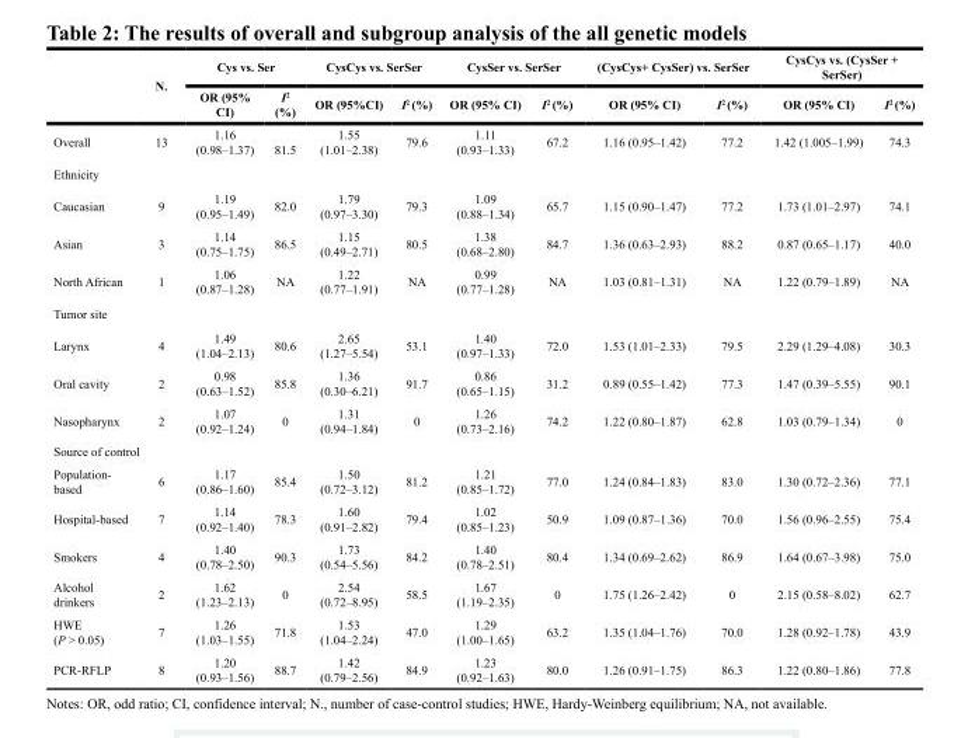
<table><thead><tr><td rowspan="2"></td><td rowspan="2">N.</td><td colspan="2">Cys vs. Ser</td><td colspan="2">CysCys vs. SerSer</td><td colspan="2">CysSer vs. SerSer</td><td colspan="2">(CysCys+ CysSer) vs. SerSer</td><td colspan="2">CysCys vs. (CysSer + SerSer)</td></tr><tr><td>OR (95% CI)</td><td>I<sup>2</sup> (%)</td><td>OR (95%CI)</td><td>I<sup>2</sup> (%)</td><td>OR (95% CI)</td><td>I<sup>2</sup> (%)</td><td>OR (95% CI)</td><td>I<sup>2</sup> (%)</td><td>OR (95% CI)</td><td>I<sup>2</sup> (%)</td></tr></thead><tbody><tr><td>Overall</td><td>13</td><td>1.16 (0.98–1.37)</td><td>81.5</td><td>1.55 (1.01–2.38)</td><td>79.6</td><td>1.11 (0.93–1.33)</td><td>67.2</td><td>1.16 (0.95–1.42)</td><td>77.2</td><td>1.42 (1.005–1.99)</td><td>74.3</td></tr><tr><td colspan="12">Ethnicity</td></tr><tr><td>Caucasian</td><td>9</td><td>1.19 (0.95–1.49)</td><td>82.0</td><td>1.79 (0.97–3.30)</td><td>79.3</td><td>1.09 (0.88–1.34)</td><td>65.7</td><td>1.15 (0.90–1.47)</td><td>77.2</td><td>1.73 (1.01–2.97)</td><td>74.1</td></tr><tr><td>Asian</td><td>3</td><td>1.14 (0.75–1.75)</td><td>86.5</td><td>1.15 (0.49–2.71)</td><td>80.5</td><td>1.38 (0.68–2.80)</td><td>84.7</td><td>1.36 (0.63–2.93)</td><td>88.2</td><td>0.87 (0.65–1.17)</td><td>40.0</td></tr><tr><td>North African</td><td>1</td><td>1.06 (0.87–1.28)</td><td>NA</td><td>1.22 (0.77–1.91)</td><td>NA</td><td>0.99 (0.77–1.28)</td><td>NA</td><td>1.03 (0.81–1.31)</td><td>NA</td><td>1.22 (0.79–1.89)</td><td>NA</td></tr><tr><td colspan="12">Tumor site</td></tr><tr><td>Larynx</td><td>4</td><td>1.49 (1.04–2.13)</td><td>80.6</td><td>2.65 (1.27–5.54)</td><td>53.1</td><td>1.40 (0.97–1.33)</td><td>72.0</td><td>1.53 (1.01–2.33)</td><td>79.5</td><td>2.29 (1.29–4.08)</td><td>30.3</td></tr><tr><td>Oral cavity</td><td>2</td><td>0.98 (0.63–1.52)</td><td>85.8</td><td>1.36 (0.30–6.21)</td><td>91.7</td><td>0.86 (0.65–1.15)</td><td>31.2</td><td>0.89 (0.55–1.42)</td><td>77.3</td><td>1.47 (0.39–5.55)</td><td>90.1</td></tr><tr><td>Nasopharynx</td><td>2</td><td>1.07 (0.92–1.24)</td><td>0</td><td>1.31 (0.94–1.84)</td><td>0</td><td>1.26 (0.73–2.16)</td><td>74.2</td><td>1.22 (0.80–1.87)</td><td>62.8</td><td>1.03 (0.79–1.34)</td><td>0</td></tr><tr><td colspan="12">Source of control</td></tr><tr><td>Population- based</td><td>6</td><td>1.17 (0.86–1.60)</td><td>85.4</td><td>1.50 (0.72–3.12)</td><td>81.2</td><td>1.21 (0.85–1.72)</td><td>77.0</td><td>1.24 (0.84–1.83)</td><td>83.0</td><td>1.30 (0.72–2.36)</td><td>77.1</td></tr><tr><td>Hospital-based</td><td>7</td><td>1.14 (0.92–1.40)</td><td>78.3</td><td>1.60 (0.91–2.82)</td><td>79.4</td><td>1.02 (0.85–1.23)</td><td>50.9</td><td>1.09 (0.87–1.36)</td><td>70.0</td><td>1.56 (0.96–2.55)</td><td>75.4</td></tr><tr><td>Smokers</td><td>4</td><td>1.40 (0.78–2.50)</td><td>90.3</td><td>1.73 (0.54–5.56)</td><td>84.2</td><td>1.40 (0.78–2.51)</td><td>80.4</td><td>1.34 (0.69–2.62)</td><td>86.9</td><td>1.64 (0.67–3.98)</td><td>75.0</td></tr><tr><td>Alcohol drinkers</td><td>2</td><td>1.62 (1.23–2.13)</td><td>0</td><td>2.54 (0.72–8.95)</td><td>58.5</td><td>1.67 (1.19–2.35)</td><td>0</td><td>1.75 (1.26–2.42)</td><td>0</td><td>2.15 (0.58–8.02)</td><td>62.7</td></tr><tr><td>HWE (P &gt; 0.05)</td><td>7</td><td>1.26 (1.03–1.55)</td><td>71.8</td><td>1.53 (1.04–2.24)</td><td>47.0</td><td>1.29 (1.00–1.65)</td><td>63.2</td><td>1.35 (1.04–1.76)</td><td>70.0</td><td>1.28 (0.92–1.78)</td><td>43.9</td></tr><tr><td>PCR-RFLP</td><td>8</td><td>1.20 (0.93–1.56)</td><td>88.7</td><td>1.42 (0.79–2.56)</td><td>84.9</td><td>1.23 (0.92–1.63)</td><td>80.0</td><td>1.26 (0.91–1.75)</td><td>86.3</td><td>1.22 (0.80–1.86)</td><td>77.8</td></tr></tbody></table>